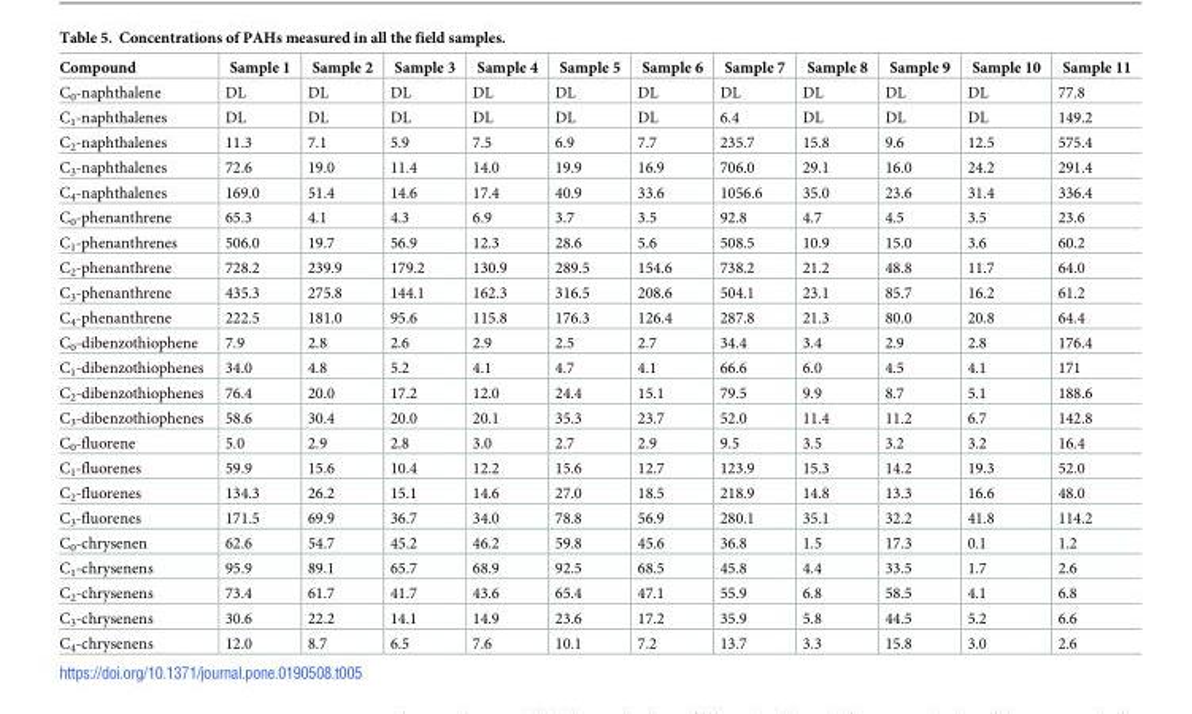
<table><thead><tr><td>Compound</td><td>Sample 1</td><td>Sample 2</td><td>Sample 3</td><td>Sample 4</td><td>Sample 5</td><td>Sample 6</td><td>Sample 7</td><td>Sample 8</td><td>Sample 9</td><td>Sample 10</td><td>Sample 11</td></tr></thead><tbody><tr><td>C<sub>0</sub>-naphthalene</td><td>DL</td><td>DL</td><td>DL</td><td>DL</td><td>DL</td><td>DL</td><td>DL</td><td>DL</td><td>DL</td><td>DL</td><td>77.8</td></tr><tr><td>C<sub>1</sub>-naphthalenes</td><td>DL</td><td>DL</td><td>DL</td><td>DL</td><td>DL</td><td>DL</td><td>6.4</td><td>DL</td><td>DL</td><td>DL</td><td>149.2</td></tr><tr><td>C<sub>2</sub>-naphthalenes</td><td>11.3</td><td>7.1</td><td>5.9</td><td>7.5</td><td>6.9</td><td>7.7</td><td>235.7</td><td>15.8</td><td>9.6</td><td>12.5</td><td>575.4</td></tr><tr><td>C<sub>3</sub>-naphthalenes</td><td>72.6</td><td>19.0</td><td>11.4</td><td>14.0</td><td>19.9</td><td>16.9</td><td>706.0</td><td>29.1</td><td>16.0</td><td>24.2</td><td>291.4</td></tr><tr><td>C<sub>4</sub>-naphthalenes</td><td>169.0</td><td>51.4</td><td>14.6</td><td>17.4</td><td>40.9</td><td>33.6</td><td>1056.6</td><td>35.0</td><td>23.6</td><td>31.4</td><td>336.4</td></tr><tr><td>C<sub>0</sub>-phenanthrene</td><td>65.3</td><td>4.1</td><td>4.3</td><td>6.9</td><td>3.7</td><td>3.5</td><td>92.8</td><td>4.7</td><td>4.5</td><td>3.5</td><td>23.6</td></tr><tr><td>C<sub>1</sub>-phenanthrenes</td><td>506.0</td><td>19.7</td><td>56.9</td><td>12.3</td><td>28.6</td><td>5.6</td><td>508.5</td><td>10.9</td><td>15.0</td><td>3.6</td><td>60.2</td></tr><tr><td>C<sub>2</sub>-phenanthrene</td><td>728.2</td><td>239.9</td><td>179.2</td><td>130.9</td><td>289.5</td><td>154.6</td><td>738.2</td><td>21.2</td><td>48.8</td><td>11.7</td><td>64.0</td></tr><tr><td>C<sub>3</sub>-phenanthrene</td><td>435.3</td><td>275.8</td><td>144.1</td><td>162.3</td><td>316.5</td><td>208.6</td><td>504.1</td><td>23.1</td><td>85.7</td><td>16.2</td><td>61.2</td></tr><tr><td>C<sub>4</sub>-phenanthrene</td><td>222.5</td><td>181.0</td><td>95.6</td><td>115.8</td><td>176.3</td><td>126.4</td><td>287.8</td><td>21.3</td><td>80.0</td><td>20.8</td><td>64.4</td></tr><tr><td>C<sub>0</sub>-dibenzothiophene</td><td>7.9</td><td>2.8</td><td>2.6</td><td>2.9</td><td>2.5</td><td>2.7</td><td>34.4</td><td>3.4</td><td>2.9</td><td>2.8</td><td>176.4</td></tr><tr><td>C<sub>1</sub>-dibenzothiophenes</td><td>34.0</td><td>4.8</td><td>5.2</td><td>4.1</td><td>4.7</td><td>4.1</td><td>66.6</td><td>6.0</td><td>4.5</td><td>4.1</td><td>171</td></tr><tr><td>C<sub>2</sub>-dibenzothiophenes</td><td>76.4</td><td>20.0</td><td>17.2</td><td>12.0</td><td>24.4</td><td>15.1</td><td>79.5</td><td>9.9</td><td>8.7</td><td>5.1</td><td>188.6</td></tr><tr><td>C<sub>3</sub>-dibenzothiophenes</td><td>58.6</td><td>30.4</td><td>20.0</td><td>20.1</td><td>35.3</td><td>23.7</td><td>52.0</td><td>11.4</td><td>11.2</td><td>6.7</td><td>142.8</td></tr><tr><td>C<sub>0</sub>-fluorene</td><td>5.0</td><td>2.9</td><td>2.8</td><td>3.0</td><td>2.7</td><td>2.9</td><td>9.5</td><td>3.5</td><td>3.2</td><td>3.2</td><td>16.4</td></tr><tr><td>C<sub>1</sub>-fluorenes</td><td>59.9</td><td>15.6</td><td>10.4</td><td>12.2</td><td>15.6</td><td>12.7</td><td>123.9</td><td>15.3</td><td>14.2</td><td>19.3</td><td>52.0</td></tr><tr><td>C<sub>2</sub>-fluorenes</td><td>134.3</td><td>26.2</td><td>15.1</td><td>14.6</td><td>27.0</td><td>18.5</td><td>218.9</td><td>14.8</td><td>13.3</td><td>16.6</td><td>48.0</td></tr><tr><td>C<sub>3</sub>-fluorenes</td><td>171.5</td><td>69.9</td><td>36.7</td><td>34.0</td><td>78.8</td><td>56.9</td><td>280.1</td><td>35.1</td><td>32.2</td><td>41.8</td><td>114.2</td></tr><tr><td>C<sub>0</sub>-chrysenen</td><td>62.6</td><td>54.7</td><td>45.2</td><td>46.2</td><td>59.8</td><td>45.6</td><td>36.8</td><td>1.5</td><td>17.3</td><td>0.1</td><td>1.2</td></tr><tr><td>C<sub>1</sub>-chrysenens</td><td>95.9</td><td>89.1</td><td>65.7</td><td>68.9</td><td>92.5</td><td>68.5</td><td>45.8</td><td>4.4</td><td>33.5</td><td>1.7</td><td>2.6</td></tr><tr><td>C<sub>2</sub>-chrysenens</td><td>73.4</td><td>61.7</td><td>41.7</td><td>43.6</td><td>65.4</td><td>47.1</td><td>55.9</td><td>6.8</td><td>58.5</td><td>4.1</td><td>6.8</td></tr><tr><td>C<sub>3</sub>-chrysenens</td><td>30.6</td><td>22.2</td><td>14.1</td><td>14.9</td><td>23.6</td><td>17.2</td><td>35.9</td><td>5.8</td><td>44.5</td><td>5.2</td><td>6.6</td></tr><tr><td>C<sub>4</sub>-chrysenens</td><td>12.0</td><td>8.7</td><td>6.5</td><td>7.6</td><td>10.1</td><td>7.2</td><td>13.7</td><td>3.3</td><td>15.8</td><td>3.0</td><td>2.6</td></tr></tbody></table>